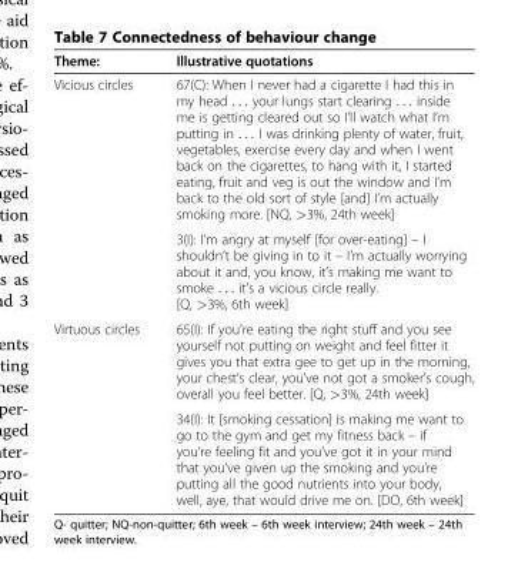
<table><thead><tr><td>Theme:</td><td>Illustrative quotations</td></tr></thead><tbody><tr><td rowspan="2">Vicious circles</td><td>67(C): When I never had a cigarette I had this in my head . . . your lungs start clearing . . . inside me is getting cleared out so I’ll watch what I’m putting in . . . I was drinking plenty of water, fruit, vegetables, exercise every day and when I went back on the cigarettes, to hang with it, I started eating, fruit and veg is out the window and I’m back to the old sort of style [and] I’m actually smoking more. [NQ, &gt;3%, 24th week]</td></tr><tr><td>3(I): I’m angry at myself [for over-eating] – I shouldn’t be giving in to it – I’m actually worrying about it and, you know, it’s making me want to smoke . . . it’s a vicious circle really. [Q, &gt;3%, 6th week]</td></tr><tr><td rowspan="2">Virtuous circles</td><td>65(I): If you’re eating the right stuff and you see yourself not putting on weight and feel fitter it gives you that extra gee to get up in the morning, your chest’s clear, you’ve not got a smoker’s cough, overall you feel better. [Q, &gt;3%, 24th week]</td></tr><tr><td>34(I): It [smoking cessation] is making me want to go to the gym and get my fitness back – if you’re feeling fit and you’ve got it in your mind that you’ve given up the smoking and you’re putting all the good nutrients into your body, well, aye, that would drive me on. [DO, 6th week]</td></tr></tbody></table>